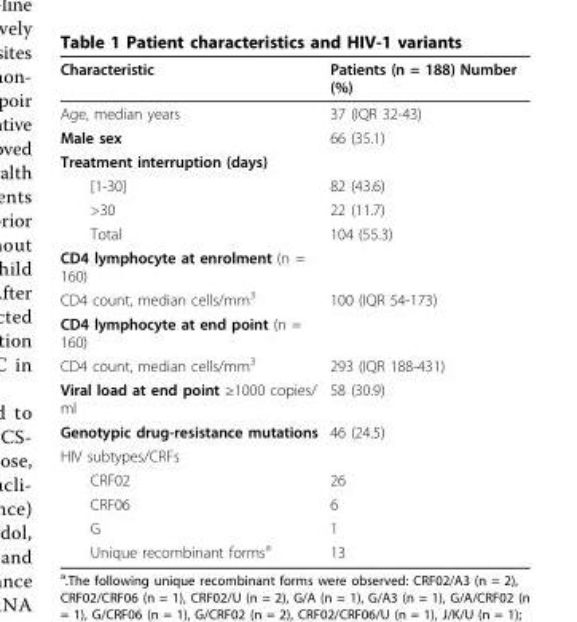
<table><thead><tr><td>Characteristic</td><td>Patients (n = 188) Number (%)</td></tr></thead><tbody><tr><td>Age, median years</td><td>37 (IQR 32-43)</td></tr><tr><td>Male sex</td><td>66 (35.1)</td></tr><tr><td colspan="2">Treatment interruption (days)</td></tr><tr><td>[1-30]</td><td>82 (43.6)</td></tr><tr><td>&gt;30</td><td>22 (11.7)</td></tr><tr><td>Total</td><td>104 (55.3)</td></tr><tr><td colspan="2">CD4 lymphocyte at enrolment (n = 160)</td></tr><tr><td>CD4 count, median cells/mm<sup>3</sup></td><td>100 (IQR 54-173)</td></tr><tr><td colspan="2">CD4 lymphocyte at end point (n = 160)</td></tr><tr><td>CD4 count, median cells/mm<sup>3</sup></td><td>293 (IQR 188-431)</td></tr><tr><td>Viral load at end point ≥1000 copies/ ml</td><td>58 (30.9)</td></tr><tr><td>Genotypic drug-resistance mutations</td><td>46 (24.5)</td></tr><tr><td colspan="2">HIV subtypes/CRFs</td></tr><tr><td>CRF02</td><td>26</td></tr><tr><td>CRF06</td><td>6</td></tr><tr><td>G</td><td>1</td></tr><tr><td>Unique recombinant forms<sup>a</sup></td><td>13</td></tr></tbody></table>